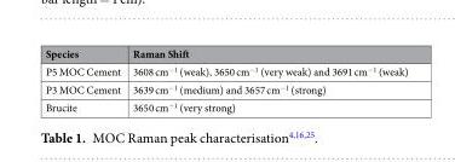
<table><thead><tr><td>Species</td><td>Raman Shift</td></tr></thead><tbody><tr><td>P5 MOC Cement</td><td>3608 cm<sup>−1</sup> (weak), 3650 cm<sup>−1</sup> (very weak) and 3691 cm<sup>−1</sup> (weak)</td></tr><tr><td>P3 MOC Cement</td><td>3639 cm<sup>−1</sup> (medium) and 3657 cm<sup>−1</sup> (strong)</td></tr><tr><td>Brucite</td><td>3650 cm<sup>−1</sup> (very strong)</td></tr></tbody></table>